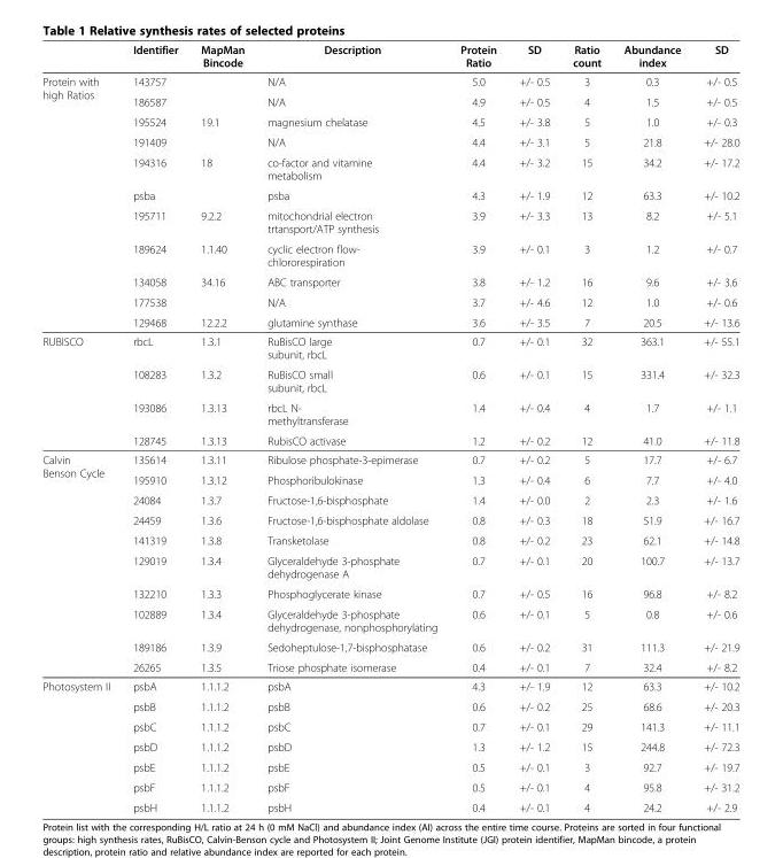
<table><thead><tr><td></td><td>Identifier</td><td>MapMan Bincode</td><td>Description</td><td>Protein Ratio</td><td>SD</td><td>Ratio count</td><td>Abundance index</td><td>SD</td></tr></thead><tbody><tr><td rowspan="11">Protein with high Ratios</td><td>143757</td><td></td><td>N/A</td><td>5.0</td><td>+/- 0.5</td><td>3</td><td>0.3</td><td>+/- 0.5</td></tr><tr><td>186587</td><td></td><td>N/A</td><td>4.9</td><td>+/- 0.5</td><td>4</td><td>1.5</td><td>+/- 0.5</td></tr><tr><td>195524</td><td>19.1</td><td>magnesium chelatase</td><td>4.5</td><td>+/- 3.8</td><td>5</td><td>1.0</td><td>+/- 0.3</td></tr><tr><td>191409</td><td></td><td>N/A</td><td>4.4</td><td>+/- 3.1</td><td>5</td><td>21.8</td><td>+/- 28.0</td></tr><tr><td>194316</td><td>18</td><td>co-factor and vitamine metabolism</td><td>4.4</td><td>+/- 3.2</td><td>15</td><td>34.2</td><td>+/- 17.2</td></tr><tr><td>psba</td><td></td><td>psba</td><td>4.3</td><td>+/- 1.9</td><td>12</td><td>63.3</td><td>+/- 10.2</td></tr><tr><td>195711</td><td>9.2.2</td><td>mitochondrial electron trtansport/ATP synthesis</td><td>3.9</td><td>+/- 3.3</td><td>13</td><td>8.2</td><td>+/- 5.1</td></tr><tr><td>189624</td><td>1.1.40</td><td>cyclic electron flow- chlororespiration</td><td>3.9</td><td>+/- 0.1</td><td>3</td><td>1.2</td><td>+/- 0.7</td></tr><tr><td>134058</td><td>34.16</td><td>ABC transporter</td><td>3.8</td><td>+/- 1.2</td><td>16</td><td>9.6</td><td>+/- 3.6</td></tr><tr><td>177538</td><td></td><td>N/A</td><td>3.7</td><td>+/- 4.6</td><td>12</td><td>1.0</td><td>+/- 0.6</td></tr><tr><td>129468</td><td>12.2.2</td><td>glutamine synthase</td><td>3.6</td><td>+/- 3.5</td><td>7</td><td>20.5</td><td>+/- 13.6</td></tr><tr><td rowspan="4">RUBISCO</td><td>rbcL</td><td>1.3.1</td><td>RuBisCO large subunit, rbcL</td><td>0.7</td><td>+/- 0.1</td><td>32</td><td>363.1</td><td>+/- 55.1</td></tr><tr><td>108283</td><td>1.3.2</td><td>RuBisCO small subunit, rbcL</td><td>0.6</td><td>+/- 0.1</td><td>15</td><td>331.4</td><td>+/- 32.3</td></tr><tr><td>193086</td><td>1.3.13</td><td>rbcL N- methyltransferase</td><td>1.4</td><td>+/- 0.4</td><td>4</td><td>1.7</td><td>+/- 1.1</td></tr><tr><td>128745</td><td>1.3.13</td><td>RubisCO activase</td><td>1.2</td><td>+/- 0.2</td><td>12</td><td>41.0</td><td>+/- 11.8</td></tr><tr><td rowspan="10">Calvin Benson Cycle</td><td>135614</td><td>1.3.11</td><td>Ribulose phosphate-3-epimerase</td><td>0.7</td><td>+/- 0.2</td><td>5</td><td>17.7</td><td>+/- 6.7</td></tr><tr><td>195910</td><td>1.3.12</td><td>Phosphoribulokinase</td><td>1.3</td><td>+/- 0.4</td><td>6</td><td>7.7</td><td>+/- 4.0</td></tr><tr><td>24084</td><td>1.3.7</td><td>Fructose-1,6-bisphosphate</td><td>1.4</td><td>+/- 0.0</td><td>2</td><td>2.3</td><td>+/- 1.6</td></tr><tr><td>24459</td><td>1.3.6</td><td>Fructose-1,6-bisphosphate aldolase</td><td>0.8</td><td>+/- 0.3</td><td>18</td><td>51.9</td><td>+/- 16.7</td></tr><tr><td>141319</td><td>1.3.8</td><td>Transketolase</td><td>0.8</td><td>+/- 0.2</td><td>23</td><td>62.1</td><td>+/- 14.8</td></tr><tr><td>129019</td><td>1.3.4</td><td>Glyceraldehyde 3-phosphate dehydrogenase A</td><td>0.7</td><td>+/- 0.1</td><td>20</td><td>100.7</td><td>+/- 13.7</td></tr><tr><td>132210</td><td>1.3.3</td><td>Phosphoglycerate kinase</td><td>0.7</td><td>+/- 0.5</td><td>16</td><td>96.8</td><td>+/- 8.2</td></tr><tr><td>102889</td><td>1.3.4</td><td>Glyceraldehyde 3-phosphate dehydrogenase, nonphosphorylating</td><td>0.6</td><td>+/- 0.1</td><td>5</td><td>0.8</td><td>+/- 0.6</td></tr><tr><td>189186</td><td>1.3.9</td><td>Sedoheptulose-1,7-bisphosphatase</td><td>0.6</td><td>+/- 0.2</td><td>31</td><td>111.3</td><td>+/- 21.9</td></tr><tr><td>26265</td><td>1.3.5</td><td>Triose phosphate isomerase</td><td>0.4</td><td>+/- 0.1</td><td>7</td><td>32.4</td><td>+/- 8.2</td></tr><tr><td rowspan="7">Photosystem II</td><td>psbA</td><td>1.1.1.2</td><td>psbA</td><td>4.3</td><td>+/- 1.9</td><td>12</td><td>63.3</td><td>+/- 10.2</td></tr><tr><td>psbB</td><td>1.1.1.2</td><td>psbB</td><td>0.6</td><td>+/- 0.2</td><td>25</td><td>68.6</td><td>+/- 20.3</td></tr><tr><td>psbC</td><td>1.1.1.2</td><td>psbC</td><td>0.7</td><td>+/- 0.1</td><td>29</td><td>141.3</td><td>+/- 11.1</td></tr><tr><td>psbD</td><td>1.1.1.2</td><td>psbD</td><td>1.3</td><td>+/- 1.2</td><td>15</td><td>244.8</td><td>+/- 72.3</td></tr><tr><td>psbE</td><td>1.1.1.2</td><td>psbE</td><td>0.5</td><td>+/- 0.1</td><td>3</td><td>92.7</td><td>+/- 19.7</td></tr><tr><td>psbF</td><td>1.1.1.2</td><td>psbF</td><td>0.5</td><td>+/- 0.1</td><td>4</td><td>95.8</td><td>+/- 31.2</td></tr><tr><td>psbH</td><td>1.1.1.2</td><td>psbH</td><td>0.4</td><td>+/- 0.1</td><td>4</td><td>24.2</td><td>+/- 2.9</td></tr></tbody></table>